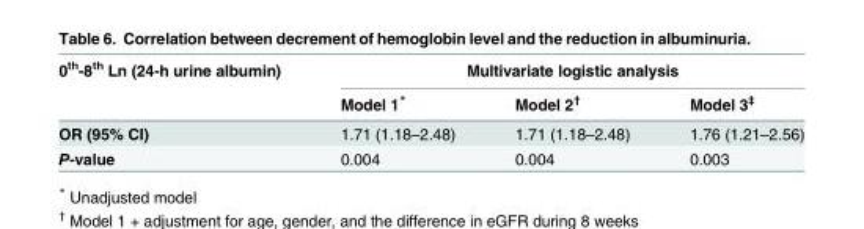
<table><thead><tr><td rowspan="2">0<sup>th</sup>-8<sup>th</sup> Ln (24-h urine albumin)</td><td colspan="3">Multivariate logistic analysis</td></tr><tr><td>Model 1*</td><td>Model 2<sup>†</sup></td><td>Model 3<sup>‡</sup></td></tr></thead><tbody><tr><td>OR (95% CI)</td><td>1.71 (1.18–2.48)</td><td>1.71 (1.18–2.48)</td><td>1.76 (1.21–2.56)</td></tr><tr><td>P-value</td><td>0.004</td><td>0.004</td><td>0.003</td></tr></tbody></table>